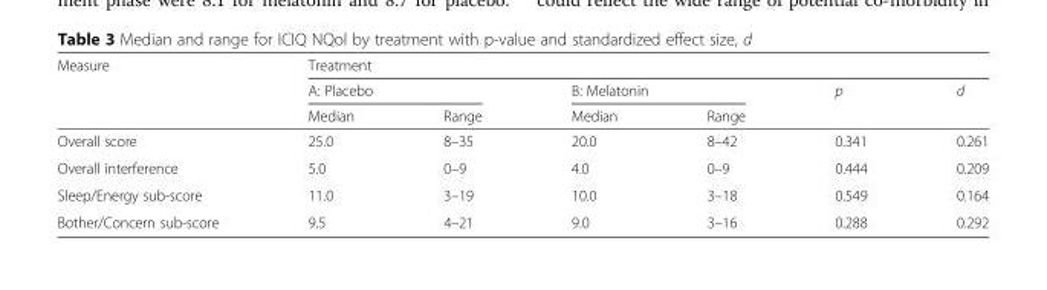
<table><thead><tr><td rowspan="3">Measure</td><td colspan="6">Treatment</td></tr><tr><td colspan="2">A: Placebo</td><td colspan="2">B: Melatonin</td><td rowspan="2">p</td><td rowspan="2">d</td></tr><tr><td>Median</td><td>Range</td><td>Median</td><td>Range</td></tr></thead><tbody><tr><td>Overall score</td><td>25.0</td><td>8–35</td><td>20.0</td><td>8–42</td><td>0.341</td><td>0.261</td></tr><tr><td>Overall interference</td><td>5.0</td><td>0–9</td><td>4.0</td><td>0–9</td><td>0.444</td><td>0.209</td></tr><tr><td>Sleep/Energy sub-score</td><td>11.0</td><td>3–19</td><td>10.0</td><td>3–18</td><td>0.549</td><td>0.164</td></tr><tr><td>Bother/Concern sub-score</td><td>9.5</td><td>4–21</td><td>9.0</td><td>3–16</td><td>0.288</td><td>0.292</td></tr></tbody></table>